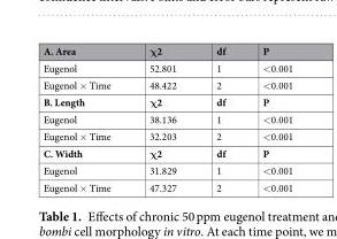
<table><thead><tr><td>A. Area</td><td>χ2</td><td>df</td><td>P</td></tr></thead><tbody><tr><td>Eugenol</td><td>52.801</td><td>1</td><td>&lt;0.001</td></tr><tr><td>Eugenol × Time</td><td>48.422</td><td>2</td><td>&lt;0.001</td></tr><tr><td>B. Length</td><td>χ2</td><td>df</td><td>P</td></tr><tr><td>Eugenol</td><td>38.136</td><td>1</td><td>&lt;0.001</td></tr><tr><td>Eugenol × Time</td><td>32.203</td><td>2</td><td>&lt;0.001</td></tr><tr><td>C. Width</td><td>χ2</td><td>df</td><td>P</td></tr><tr><td>Eugenol</td><td>31.829</td><td>1</td><td>&lt;0.001</td></tr><tr><td>Eugenol × Time</td><td>47.327</td><td>2</td><td>&lt;0.001</td></tr></tbody></table>